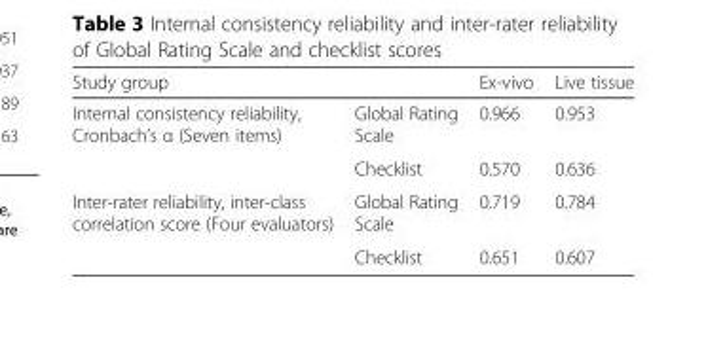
<table><thead><tr><td>Study group</td><td></td><td>Ex-vivo</td><td>Live tissue</td></tr></thead><tbody><tr><td rowspan="2">Internal consistency reliability, Cronbach’s α (Seven items)</td><td>Global Rating Scale</td><td>0.966</td><td>0.953</td></tr><tr><td>Checklist</td><td>0.570</td><td>0.636</td></tr><tr><td rowspan="2">Inter-rater reliability, inter-class correlation score (Four evaluators)</td><td>Global Rating Scale</td><td>0.719</td><td>0.784</td></tr><tr><td>Checklist</td><td>0.651</td><td>0.607</td></tr></tbody></table>